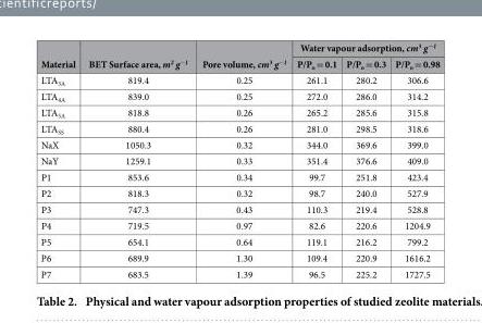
<table><thead><tr><td rowspan="2">Material</td><td rowspan="2">BET Surface area, m<sup>2</sup> g<sup>−1</sup></td><td rowspan="2">Pore volume, cm<sup>3</sup> g<sup>−1</sup></td><td colspan="3">Water vapour adsorption, cm<sup>3</sup> g<sup>−1</sup></td></tr><tr><td>P/P<sub>o</sub> = 0.1</td><td>P/P<sub>o</sub> = 0.3</td><td>P/P<sub>o</sub> = 0.98</td></tr></thead><tbody><tr><td>LTA<sub>3A</sub></td><td>819.4</td><td>0.25</td><td>261.1</td><td>280.2</td><td>306.6</td></tr><tr><td>LTA<sub>4A</sub></td><td>839.0</td><td>0.25</td><td>272.0</td><td>286.0</td><td>314.2</td></tr><tr><td>LTA<sub>5A</sub></td><td>818.8</td><td>0.26</td><td>265.2</td><td>285.6</td><td>315.8</td></tr><tr><td>LTA<sub>SS</sub></td><td>880.4</td><td>0.26</td><td>281.0</td><td>298.5</td><td>318.6</td></tr><tr><td>NaX</td><td>1050.3</td><td>0.32</td><td>344.0</td><td>369.6</td><td>399.0</td></tr><tr><td>NaY</td><td>1259.1</td><td>0.33</td><td>351.4</td><td>376.6</td><td>409.0</td></tr><tr><td>P1</td><td>853.6</td><td>0.34</td><td>99.7</td><td>251.8</td><td>423.4</td></tr><tr><td>P2</td><td>818.3</td><td>0.32</td><td>98.7</td><td>240.0</td><td>527.9</td></tr><tr><td>P3</td><td>747.3</td><td>0.43</td><td>110.3</td><td>219.4</td><td>528.8</td></tr><tr><td>P4</td><td>719.5</td><td>0.97</td><td>82.6</td><td>220.6</td><td>1204.9</td></tr><tr><td>P5</td><td>654.1</td><td>0.64</td><td>119.1</td><td>216.2</td><td>799.2</td></tr><tr><td>P6</td><td>689.9</td><td>1.30</td><td>109.4</td><td>220.9</td><td>1616.2</td></tr><tr><td>P7</td><td>683.5</td><td>1.39</td><td>96.5</td><td>225.2</td><td>1727.5</td></tr></tbody></table>